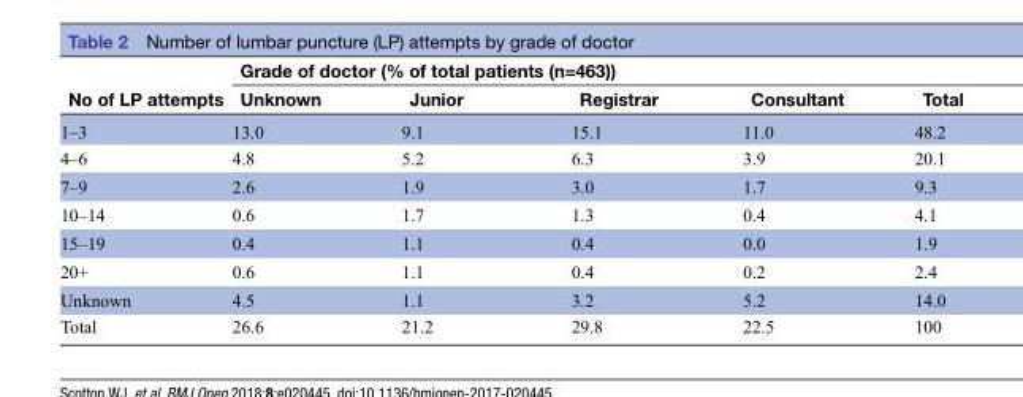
<table><thead><tr><td rowspan="2">No of LP attempts</td><td colspan="5">Grade of doctor (% of total patients (n=463))</td></tr><tr><td>Unknown</td><td>Junior</td><td>Registrar</td><td>Consultant</td><td>Total</td></tr></thead><tbody><tr><td>1–3</td><td>13.0</td><td>9.1</td><td>15.1</td><td>11.0</td><td>48.2</td></tr><tr><td>4–6</td><td>4.8</td><td>5.2</td><td>6.3</td><td>3.9</td><td>20.1</td></tr><tr><td>7–9</td><td>2.6</td><td>1.9</td><td>3.0</td><td>1.7</td><td>9.3</td></tr><tr><td>10–14</td><td>0.6</td><td>1.7</td><td>1.3</td><td>0.4</td><td>4.1</td></tr><tr><td>15–19</td><td>0.4</td><td>1.1</td><td>0.4</td><td>0.0</td><td>1.9</td></tr><tr><td>20+</td><td>0.6</td><td>1.1</td><td>0.4</td><td>0.2</td><td>2.4</td></tr><tr><td>Unknown</td><td>4.5</td><td>1.1</td><td>3.2</td><td>5.2</td><td>14.0</td></tr><tr><td>Total</td><td>26.6</td><td>21.2</td><td>29.8</td><td>22.5</td><td>100</td></tr></tbody></table>